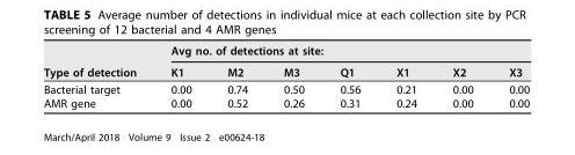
<table><thead><tr><td rowspan="2">Type of detection</td><td colspan="7">Avg no. of detections at site:</td></tr><tr><td>K1</td><td>M2</td><td>M3</td><td>Q1</td><td>X1</td><td>X2</td><td>X3</td></tr></thead><tbody><tr><td>Bacterial target</td><td>0.00</td><td>0.74</td><td>0.50</td><td>0.56</td><td>0.21</td><td>0.00</td><td>0.00</td></tr><tr><td>AMR gene</td><td>0.00</td><td>0.52</td><td>0.26</td><td>0.31</td><td>0.24</td><td>0.00</td><td>0.00</td></tr></tbody></table>